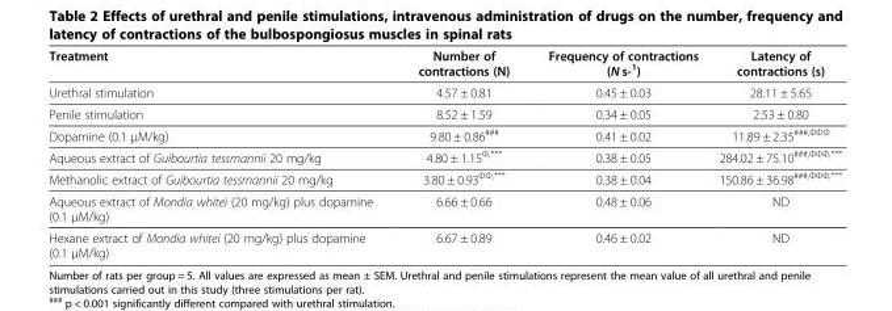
<table><thead><tr><td>Treatment</td><td>Number of contractions (N)</td><td>Frequency of contractions (N s-<sup>1</sup>)</td><td>Latency of contractions (s)</td></tr></thead><tbody><tr><td>Urethral stimulation</td><td>4.57 ± 0.81</td><td>0.45 ± 0.03</td><td>28.11 ± 5.65</td></tr><tr><td>Penile stimulation</td><td>8.52 ± 1.59</td><td>0.34 ± 0.05</td><td>2.53 ± 0.80</td></tr><tr><td>Dopamine (0.1 μM/kg)</td><td>9.80 ± 0.86<sup>###</sup></td><td>0.41 ± 0.02</td><td>11.89 ± 2.35<sup>###,ФФФ</sup></td></tr><tr><td>Aqueous extract of Guibourtia tessmannii 20 mg/kg</td><td>4.80 ± 1.15<sup>Ф,***</sup></td><td>0.38 ± 0.05</td><td>284.02 ± 75.10<sup>###,ФФФ,***</sup></td></tr><tr><td>Methanolic extract of Guibourtia tessmannii 20 mg/kg</td><td>3.80 ± 0.93<sup>ФФ,***</sup></td><td>0.38 ± 0.04</td><td>150.86 ± 36.98<sup>###,ФФФ,***</sup></td></tr><tr><td>Aqueous extract of Mondia whitei (20 mg/kg) plus dopamine (0.1 μM/kg)</td><td>6.66 ± 0.66</td><td>0.48 ± 0.06</td><td>ND</td></tr><tr><td>Hexane extract of Mondia whitei (20 mg/kg) plus dopamine (0.1 μM/kg)</td><td>6.67 ± 0.89</td><td>0.46 ± 0.02</td><td>ND</td></tr></tbody></table>